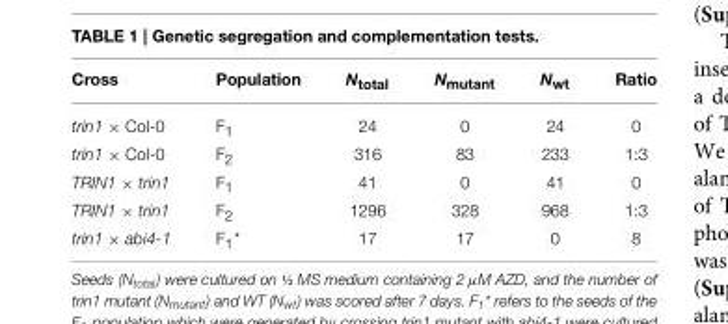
<table><thead><tr><td>Cross</td><td>Population</td><td>N<sub>total</sub></td><td>N<sub>mutant</sub></td><td>N<sub>wt</sub></td><td>Ratio</td></tr></thead><tbody><tr><td>trin1 × Col-0</td><td>F<sub>1</sub></td><td>24</td><td>0</td><td>24</td><td>0</td></tr><tr><td>trin1 × Col-0</td><td>F<sub>2</sub></td><td>316</td><td>83</td><td>233</td><td>1:3</td></tr><tr><td>TRIN1 × trin1</td><td>F<sub>1</sub></td><td>41</td><td>0</td><td>41</td><td>0</td></tr><tr><td>TRIN1 × trin1</td><td>F<sub>2</sub></td><td>1296</td><td>328</td><td>968</td><td>1:3</td></tr><tr><td>trin1 × abi4-1</td><td>F<sub>1</sub>*</td><td>17</td><td>17</td><td>0</td><td>8</td></tr></tbody></table>